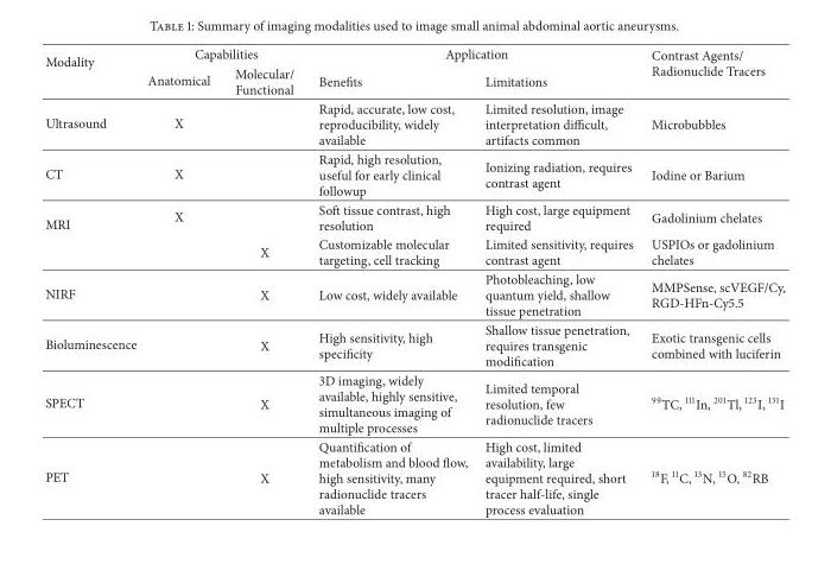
<table><thead><tr><td rowspan="2">Modality</td><td colspan="2">Capabilities</td><td colspan="2">Application</td><td rowspan="2">Contrast Agents/ Radionuclide Tracers</td></tr><tr><td>Anatomical</td><td>Molecular/ Functional</td><td>Benefits</td><td>Limitations</td></tr></thead><tbody><tr><td>Ultrasound</td><td>X</td><td></td><td>Rapid, accurate, low cost, reproducibility, widely available</td><td>Limited resolution, image interpretation difficult, artifacts common</td><td>Microbubbles</td></tr><tr><td>CT</td><td>X</td><td></td><td>Rapid, high resolution, useful for early clinical followup</td><td>Ionizing radiation, requires contrast agent</td><td>Iodine or Barium</td></tr><tr><td rowspan="2">MRI</td><td>X</td><td></td><td>Soft tissue contrast, high resolution</td><td>High cost, large equipment required</td><td>Gadolinium chelates</td></tr><tr><td></td><td>X</td><td>Customizable molecular targeting, cell tracking</td><td>Limited sensitivity, requires contrast agent</td><td>USPIOs or gadolinium chelates</td></tr><tr><td>NIRF</td><td></td><td>X</td><td>Low cost, widely available</td><td>Photobleaching, low quantum yield, shallow tissue penetration</td><td>MMPSense, scVEGF/Cy, RGD-HFn-Cy5.5</td></tr><tr><td>Bioluminescence</td><td></td><td>X</td><td>High sensitivity, high specificity</td><td>Shallow tissue penetration, requires transgenic modification</td><td>Exotic transgenic cells combined with luciferin</td></tr><tr><td>SPECT</td><td></td><td>X</td><td>3D imaging, widely available, highly sensitive, simultaneous imaging of multiple processes</td><td>Limited temporal resolution, few radionuclide tracers</td><td><sup>99</sup>TC, <sup>111</sup>In, <sup>201</sup>Tl, <sup>123</sup>I, <sup>131</sup>I</td></tr><tr><td>PET</td><td></td><td>X</td><td>Quantification of metabolism and blood flow, high sensitivity, many radionuclide tracers available</td><td>High cost, limited availability, large equipment required, short tracer half-life, single process evaluation</td><td><sup>18</sup>F, <sup>11</sup>C, <sup>13</sup>N, <sup>15</sup>O, <sup>82</sup>RB</td></tr></tbody></table>